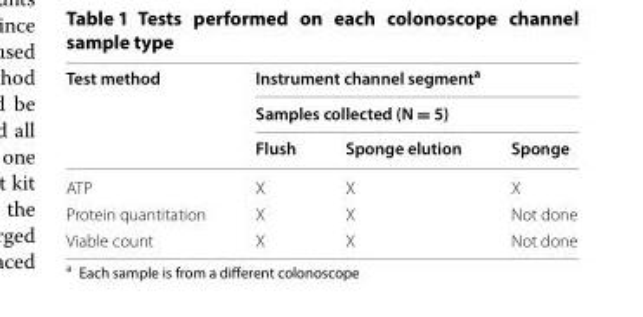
<table><thead><tr><td rowspan="3">Test method</td><td rowspan="2" colspan="3">Instrument channel segment<sup>a</sup> Samples collected (N = 5)</td></tr><tr></tr><tr><td>Flush</td><td>Sponge elution</td><td>Sponge</td></tr></thead><tbody><tr><td>ATP</td><td>X</td><td>X</td><td>X</td></tr><tr><td>Protein quantitation</td><td>X</td><td>X</td><td>Not done</td></tr><tr><td>Viable count</td><td>X</td><td>X</td><td>Not done</td></tr></tbody></table>